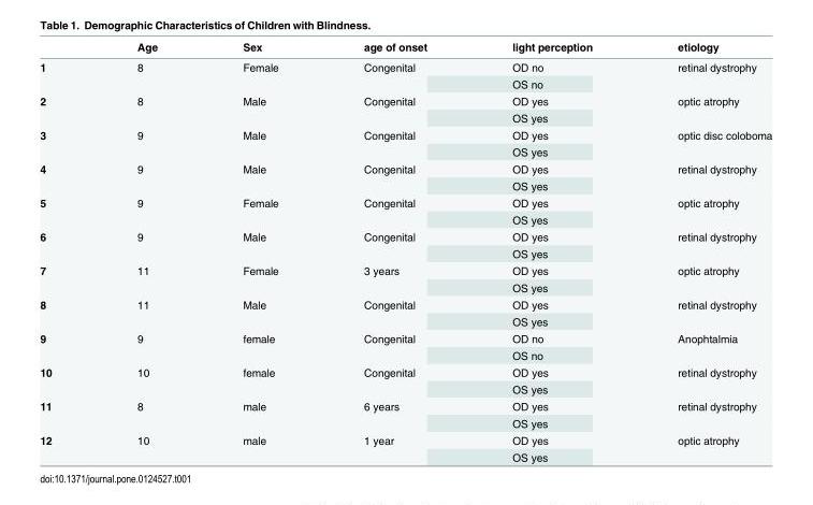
<table><thead><tr><td></td><td>Age</td><td>Sex</td><td>age of onset</td><td>light perception</td><td>etiology</td></tr></thead><tbody><tr><td rowspan="2">1</td><td rowspan="2">8</td><td rowspan="2">Female</td><td rowspan="2">Congenital</td><td>OD no</td><td rowspan="2">retinal dystrophy</td></tr><tr><td>OS no</td></tr><tr><td rowspan="2">2</td><td rowspan="2">8</td><td rowspan="2">Male</td><td rowspan="2">Congenital</td><td>OD yes</td><td rowspan="2">optic atrophy</td></tr><tr><td>OS yes</td></tr><tr><td rowspan="2">3</td><td rowspan="2">9</td><td rowspan="2">Male</td><td rowspan="2">Congenital</td><td>OD yes</td><td rowspan="2">optic disc coloboma</td></tr><tr><td>OS yes</td></tr><tr><td rowspan="2">4</td><td rowspan="2">9</td><td rowspan="2">Male</td><td rowspan="2">Congenital</td><td>OD yes</td><td rowspan="2">retinal dystrophy</td></tr><tr><td>OS yes</td></tr><tr><td rowspan="2">5</td><td rowspan="2">9</td><td rowspan="2">Female</td><td rowspan="2">Congenital</td><td>OD yes</td><td rowspan="2">optic atrophy</td></tr><tr><td>OS yes</td></tr><tr><td rowspan="2">6</td><td rowspan="2">9</td><td rowspan="2">Male</td><td rowspan="2">Congenital</td><td>OD yes</td><td rowspan="2">retinal dystrophy</td></tr><tr><td>OS yes</td></tr><tr><td rowspan="2">7</td><td rowspan="2">11</td><td rowspan="2">Female</td><td rowspan="2">3 years</td><td>OD yes</td><td rowspan="2">optic atrophy</td></tr><tr><td>OS yes</td></tr><tr><td rowspan="2">8</td><td rowspan="2">11</td><td rowspan="2">Male</td><td rowspan="2">Congenital</td><td>OD yes</td><td rowspan="2">retinal dystrophy</td></tr><tr><td>OS yes</td></tr><tr><td rowspan="2">9</td><td rowspan="2">9</td><td rowspan="2">female</td><td rowspan="2">Congenital</td><td>OD no</td><td rowspan="2">Anophtalmia</td></tr><tr><td>OS no</td></tr><tr><td rowspan="2">10</td><td rowspan="2">10</td><td rowspan="2">female</td><td rowspan="2">Congenital</td><td>OD yes</td><td rowspan="2">retinal dystrophy</td></tr><tr><td>OS yes</td></tr><tr><td rowspan="2">11</td><td rowspan="2">8</td><td rowspan="2">male</td><td rowspan="2">6 years</td><td>OD yes</td><td rowspan="2">retinal dystrophy</td></tr><tr><td>OS yes</td></tr><tr><td rowspan="2">12</td><td rowspan="2">10</td><td rowspan="2">male</td><td rowspan="2">1 year</td><td>OD yes</td><td rowspan="2">optic atrophy</td></tr><tr><td>OS yes</td></tr></tbody></table>